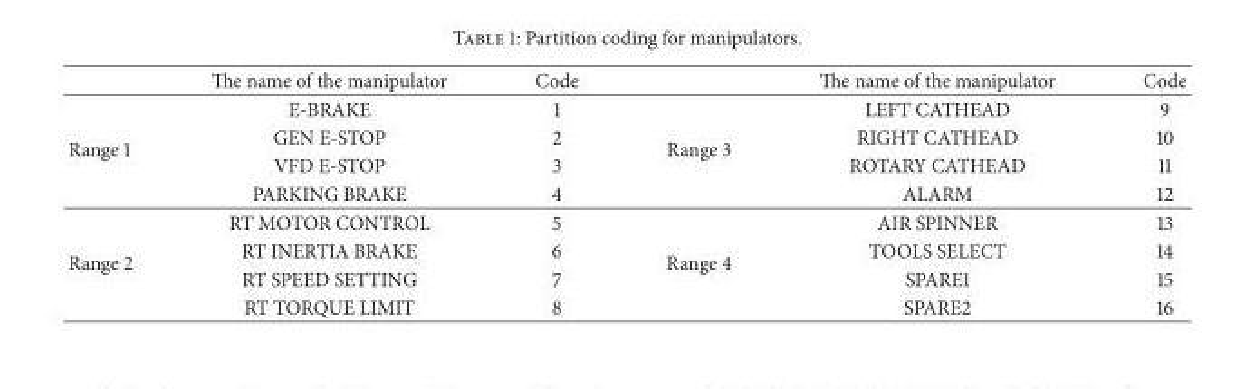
<table><thead><tr><td></td><td>The name of the manipulator</td><td>Code</td><td></td><td>The name of the manipulator</td><td>Code</td></tr></thead><tbody><tr><td rowspan="4">Range 1</td><td>E-BRAKE</td><td>1</td><td rowspan="4">Range 3</td><td>LEFT CATHEAD</td><td>9</td></tr><tr><td>GEN E-STOP</td><td>2</td><td>RIGHT CATHEAD</td><td>10</td></tr><tr><td>VFD E-STOP</td><td>3</td><td>ROTARY CATHEAD</td><td>11</td></tr><tr><td>PARKING BRAKE</td><td>4</td><td>ALARM</td><td>12</td></tr><tr><td rowspan="4">Range 2</td><td>RT MOTOR CONTROL</td><td>5</td><td rowspan="4">Range 4</td><td>AIR SPINNER</td><td>13</td></tr><tr><td>RT INERTIA BRAKE</td><td>6</td><td>TOOLS SELECT</td><td>14</td></tr><tr><td>RT SPEED SETTING</td><td>7</td><td>SPARE1</td><td>15</td></tr><tr><td>RT TORQUE LIMIT</td><td>8</td><td>SPARE2</td><td>16</td></tr></tbody></table>